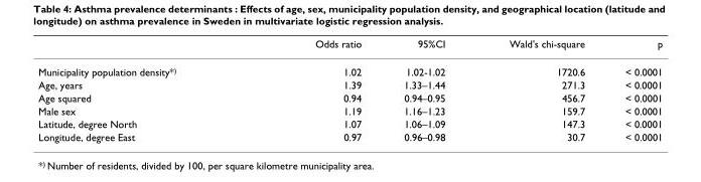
<table><thead><tr><td></td><td>Odds ratio</td><td>95%CI</td><td>Wald&#x27;s chi-square</td><td>p</td></tr></thead><tbody><tr><td>Municipality population density*<sup>)</sup></td><td>1.02</td><td>1.02-1.02</td><td>1720.6</td><td>&lt; 0.0001</td></tr><tr><td>Age, years</td><td>1.39</td><td>1.33–1.44</td><td>271.3</td><td>&lt; 0.0001</td></tr><tr><td>Age squared</td><td>0.94</td><td>0.94–0.95</td><td>456.7</td><td>&lt; 0.0001</td></tr><tr><td>Male sex</td><td>1.19</td><td>1.16–1.23</td><td>159.7</td><td>&lt; 0.0001</td></tr><tr><td>Latitude, degree North</td><td>1.07</td><td>1.06–1.09</td><td>147.3</td><td>&lt; 0.0001</td></tr><tr><td>Longitude, degree East</td><td>0.97</td><td>0.96–0.98</td><td>30.7</td><td>&lt; 0.0001</td></tr></tbody></table>